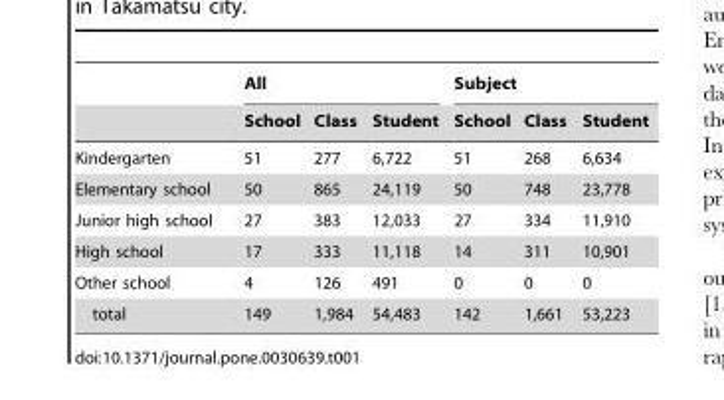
<table><thead><tr><td rowspan="2"></td><td colspan="3">All</td><td colspan="3">Subject</td></tr><tr><td>School</td><td>Class</td><td>Student</td><td>School</td><td>Class</td><td>Student</td></tr></thead><tbody><tr><td>Kindergarten</td><td>51</td><td>277</td><td>6,722</td><td>51</td><td>268</td><td>6,634</td></tr><tr><td>Elementary school</td><td>50</td><td>865</td><td>24,119</td><td>50</td><td>748</td><td>23,778</td></tr><tr><td>Junior high school</td><td>27</td><td>383</td><td>12,033</td><td>27</td><td>334</td><td>11,910</td></tr><tr><td>High school</td><td>17</td><td>333</td><td>11,118</td><td>14</td><td>311</td><td>10,901</td></tr><tr><td>Other school</td><td>4</td><td>126</td><td>491</td><td>0</td><td>0</td><td>0</td></tr><tr><td>total</td><td>149</td><td>1,984</td><td>54,483</td><td>142</td><td>1,661</td><td>53,223</td></tr></tbody></table>